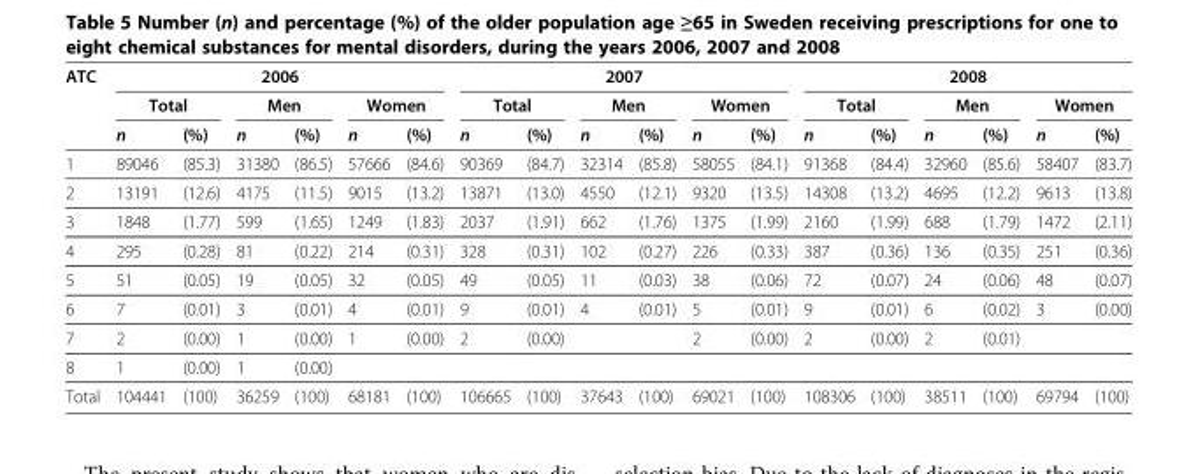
<table><thead><tr><td rowspan="3">ATC</td><td colspan="6">2006</td><td colspan="6">2007</td><td colspan="6">2008</td></tr><tr><td colspan="2">Total</td><td colspan="2">Men</td><td colspan="2">Women</td><td colspan="2">Total</td><td colspan="2">Men</td><td colspan="2">Women</td><td colspan="2">Total</td><td colspan="2">Men</td><td colspan="2">Women</td></tr><tr><td>n</td><td>(%)</td><td>n</td><td>(%)</td><td>n</td><td>(%)</td><td>n</td><td>(%)</td><td>n</td><td>(%)</td><td>n</td><td>(%)</td><td>n</td><td>(%)</td><td>n</td><td>(%)</td><td>n</td><td>(%)</td></tr></thead><tbody><tr><td>1</td><td>89046</td><td>(85.3)</td><td>31380</td><td>(86.5)</td><td>57666</td><td>(84.6)</td><td>90369</td><td>(84.7)</td><td>32314</td><td>(85.8)</td><td>58055</td><td>(84.1)</td><td>91368</td><td>(84.4)</td><td>32960</td><td>(85.6)</td><td>58407</td><td>(83.7)</td></tr><tr><td>2</td><td>13191</td><td>(12.6)</td><td>4175</td><td>(11.5)</td><td>9015</td><td>(13.2)</td><td>13871</td><td>(13.0)</td><td>4550</td><td>(12.1)</td><td>9320</td><td>(13.5)</td><td>14308</td><td>(13.2)</td><td>4695</td><td>(12.2)</td><td>9613</td><td>(13.8)</td></tr><tr><td>3</td><td>1848</td><td>(1.77)</td><td>599</td><td>(1.65)</td><td>1249</td><td>(1.83)</td><td>2037</td><td>(1.91)</td><td>662</td><td>(1.76)</td><td>1375</td><td>(1.99)</td><td>2160</td><td>(1.99)</td><td>688</td><td>(1.79)</td><td>1472</td><td>(2.11)</td></tr><tr><td>4</td><td>295</td><td>(0.28)</td><td>81</td><td>(0.22)</td><td>214</td><td>(0.31)</td><td>328</td><td>(0.31)</td><td>102</td><td>(0.27)</td><td>226</td><td>(0.33)</td><td>387</td><td>(0.36)</td><td>136</td><td>(0.35)</td><td>251</td><td>(0.36)</td></tr><tr><td>5</td><td>51</td><td>(0.05)</td><td>19</td><td>(0.05)</td><td>32</td><td>(0.05)</td><td>49</td><td>(0.05)</td><td>11</td><td>(0.03)</td><td>38</td><td>(0.06)</td><td>72</td><td>(0.07)</td><td>24</td><td>(0.06)</td><td>48</td><td>(0.07)</td></tr><tr><td>6</td><td>7</td><td>(0.01)</td><td>3</td><td>(0.01)</td><td>4</td><td>(0.01)</td><td>9</td><td>(0.01)</td><td>4</td><td>(0.01)</td><td>5</td><td>(0.01)</td><td>9</td><td>(0.01)</td><td>6</td><td>(0.02)</td><td>3</td><td>(0.00)</td></tr><tr><td>7</td><td>2</td><td>(0.00)</td><td>1</td><td>(0.00)</td><td>1</td><td>(0.00)</td><td>2</td><td>(0.00)</td><td></td><td></td><td>2</td><td>(0.00)</td><td>2</td><td>(0.00)</td><td>2</td><td>(0.01)</td><td></td><td></td></tr><tr><td>8</td><td>1</td><td>(0.00)</td><td>1</td><td>(0.00)</td><td></td><td></td><td></td><td></td><td></td><td></td><td></td><td></td><td></td><td></td><td></td><td></td><td></td><td></td></tr><tr><td>Total</td><td>104441</td><td>(100)</td><td>36259</td><td>(100)</td><td>68181</td><td>(100)</td><td>106665</td><td>(100)</td><td>37643</td><td>(100)</td><td>69021</td><td>(100)</td><td>108306</td><td>(100)</td><td>38511</td><td>(100)</td><td>69794</td><td>(100)</td></tr></tbody></table>